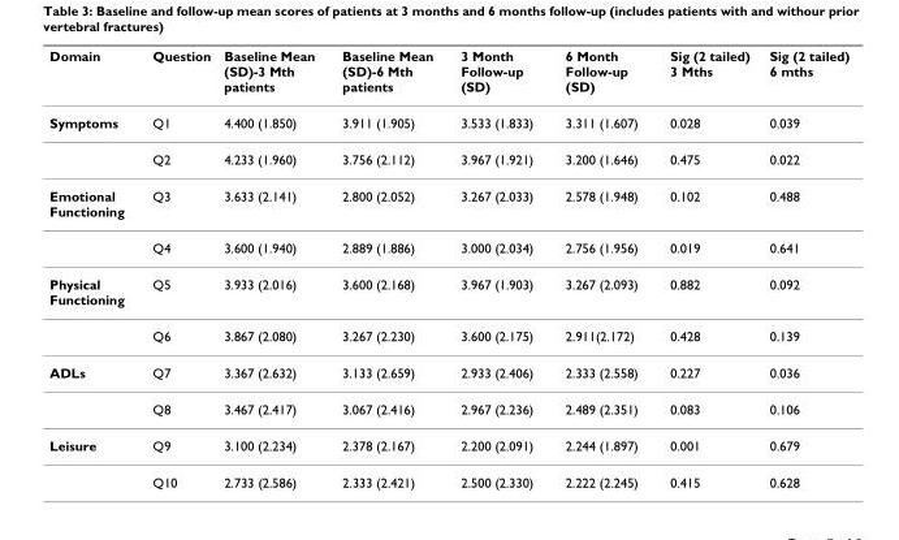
<table><thead><tr><td>Domain</td><td>Question</td><td>Baseline Mean (SD)-3 Mth patients</td><td>Baseline Mean (SD)-6 Mth patients</td><td>3 Month Follow-up (SD)</td><td>6 Month Follow-up (SD)</td><td>Sig (2 tailed) 3 Mths</td><td>Sig (2 tailed) 6 mths</td></tr></thead><tbody><tr><td rowspan="2">Symptoms</td><td>Q1</td><td>4.400 (1.850)</td><td>3.911 (1.905)</td><td>3.533 (1.833)</td><td>3.311 (1.607)</td><td>0.028</td><td>0.039</td></tr><tr><td>Q2</td><td>4.233 (1.960)</td><td>3.756 (2.112)</td><td>3.967 (1.921)</td><td>3.200 (1.646)</td><td>0.475</td><td>0.022</td></tr><tr><td rowspan="2">Emotional Functioning</td><td>Q3</td><td>3.633 (2.141)</td><td>2.800 (2.052)</td><td>3.267 (2.033)</td><td>2.578 (1.948)</td><td>0.102</td><td>0.488</td></tr><tr><td>Q4</td><td>3.600 (1.940)</td><td>2.889 (1.886)</td><td>3.000 (2.034)</td><td>2.756 (1.956)</td><td>0.019</td><td>0.641</td></tr><tr><td rowspan="2">Physical Functioning</td><td>Q5</td><td>3.933 (2.016)</td><td>3.600 (2.168)</td><td>3.967 (1.903)</td><td>3.267 (2.093)</td><td>0.882</td><td>0.092</td></tr><tr><td>Q6</td><td>3.867 (2.080)</td><td>3.267 (2.230)</td><td>3.600 (2.175)</td><td>2.911(2.172)</td><td>0.428</td><td>0.139</td></tr><tr><td rowspan="2">ADLs</td><td>Q7</td><td>3.367 (2.632)</td><td>3.133 (2.659)</td><td>2.933 (2.406)</td><td>2.333 (2.558)</td><td>0.227</td><td>0.036</td></tr><tr><td>Q8</td><td>3.467 (2.417)</td><td>3.067 (2.416)</td><td>2.967 (2.236)</td><td>2.489 (2.351)</td><td>0.083</td><td>0.106</td></tr><tr><td rowspan="2">Leisure</td><td>Q9</td><td>3.100 (2.234)</td><td>2.378 (2.167)</td><td>2.200 (2.091)</td><td>2.244 (1.897)</td><td>0.001</td><td>0.679</td></tr><tr><td>Q10</td><td>2.733 (2.586)</td><td>2.333 (2.421)</td><td>2.500 (2.330)</td><td>2.222 (2.245)</td><td>0.415</td><td>0.628</td></tr></tbody></table>